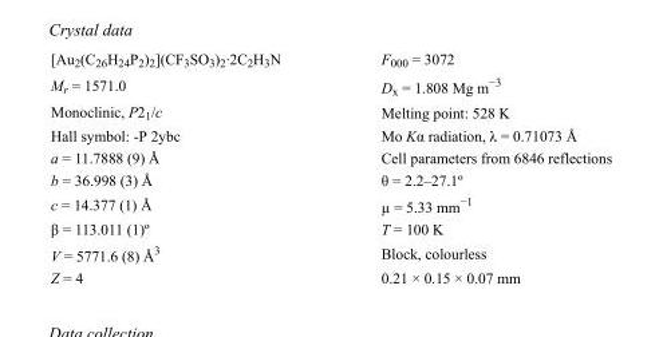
<table><tbody><tr><td>[Au<sub>2</sub>(C<sub>26</sub>H<sub>24</sub>P<sub>2</sub>)<sub>2</sub>](CF<sub>3</sub>SO<sub>3</sub>)<sub>2</sub>·2C<sub>2</sub>H<sub>3</sub>N</td><td>F000 = 3072</td></tr><tr><td>M<sub>r</sub> = 1571.0</td><td>D<sub>x</sub> = 1.808 Mg m<sup>−3</sup></td></tr><tr><td>Monoclinic, P2<sub>1</sub>/c</td><td>Melting point: 528 K</td></tr><tr><td>Hall symbol: -P 2ybc</td><td>Mo Kα radiation, λ = 0.71073 Å</td></tr><tr><td>a = 11.7888 (9) Å</td><td>Cell parameters from 6846 reflections</td></tr><tr><td>b = 36.998 (3) Å</td><td>θ = 2.2–27.1º</td></tr><tr><td>c = 14.377 (1) Å</td><td>µ = 5.33 mm<sup>−1</sup></td></tr><tr><td>β = 113.011 (1)º</td><td>T = 100 K</td></tr><tr><td>V = 5771.6 (8) Å<sup>3</sup></td><td>Block, colourless</td></tr><tr><td>Z = 4</td><td>0.21 × 0.15 × 0.07 mm</td></tr></tbody></table>